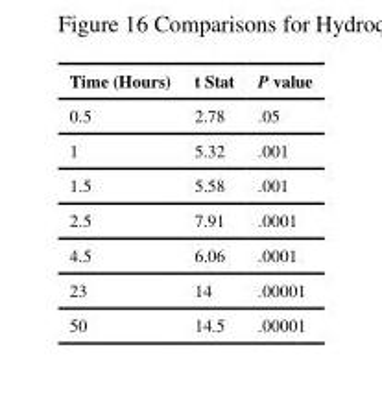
<table><thead><tr><td>Time (Hours)</td><td>t Stat</td><td>P value</td></tr></thead><tbody><tr><td>0.5</td><td>2.78</td><td>.05</td></tr><tr><td>1</td><td>5.32</td><td>.001</td></tr><tr><td>1.5</td><td>5.58</td><td>.001</td></tr><tr><td>2.5</td><td>7.91</td><td>.0001</td></tr><tr><td>4.5</td><td>6.06</td><td>.0001</td></tr><tr><td>23</td><td>14</td><td>.00001</td></tr><tr><td>50</td><td>14.5</td><td>.00001</td></tr></tbody></table>